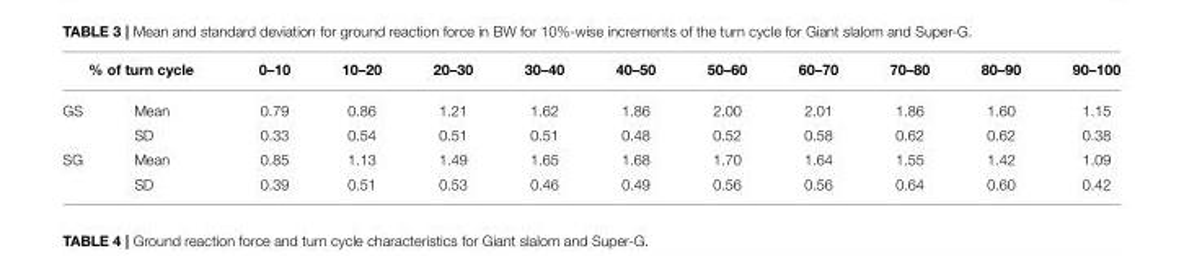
<table><thead><tr><td colspan="2">% of turn cycle</td><td rowspan="2">0–10 0.79</td><td rowspan="2">10–20 0.86</td><td rowspan="2">20–30 1.21</td><td rowspan="2">30–40 1.62</td><td rowspan="2">40–50 1.86</td><td rowspan="2">50–60 2.00</td><td rowspan="2">60–70 2.01</td><td rowspan="2">70–80 1.86</td><td rowspan="2">80–90 1.60</td><td rowspan="2">90–100 1.15</td></tr><tr><td>GS</td><td>Mean</td></tr></thead><tbody><tr><td></td><td>SD</td><td>0.33</td><td>0.54</td><td>0.51</td><td>0.51</td><td>0.48</td><td>0.52</td><td>0.58</td><td>0.62</td><td>0.62</td><td>0.38</td></tr><tr><td rowspan="2">SG</td><td>Mean</td><td>0.85</td><td>1.13</td><td>1.49</td><td>1.65</td><td>1.68</td><td>1.70</td><td>1.64</td><td>1.55</td><td>1.42</td><td>1.09</td></tr><tr><td>SD</td><td>0.39</td><td>0.51</td><td>0.53</td><td>0.46</td><td>0.49</td><td>0.56</td><td>0.56</td><td>0.64</td><td>0.60</td><td>0.42</td></tr></tbody></table>